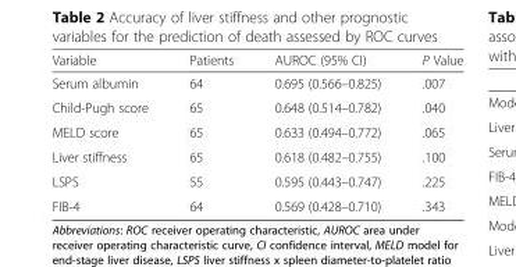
<table><thead><tr><td>Variable</td><td>Patients</td><td>AUROC (95% CI)</td><td>P Value</td></tr></thead><tbody><tr><td>Serum albumin</td><td>64</td><td>0.695 (0.566–0.825)</td><td>.007</td></tr><tr><td>Child-Pugh score</td><td>65</td><td>0.648 (0.514–0.782)</td><td>.040</td></tr><tr><td>MELD score</td><td>65</td><td>0.633 (0.494–0.772)</td><td>.065</td></tr><tr><td>Liver stiffness</td><td>65</td><td>0.618 (0.482–0.755)</td><td>.100</td></tr><tr><td>LSPS</td><td>55</td><td>0.595 (0.443–0.747)</td><td>.225</td></tr><tr><td>FIB-4</td><td>64</td><td>0.569 (0.428–0.710)</td><td>.343</td></tr></tbody></table>